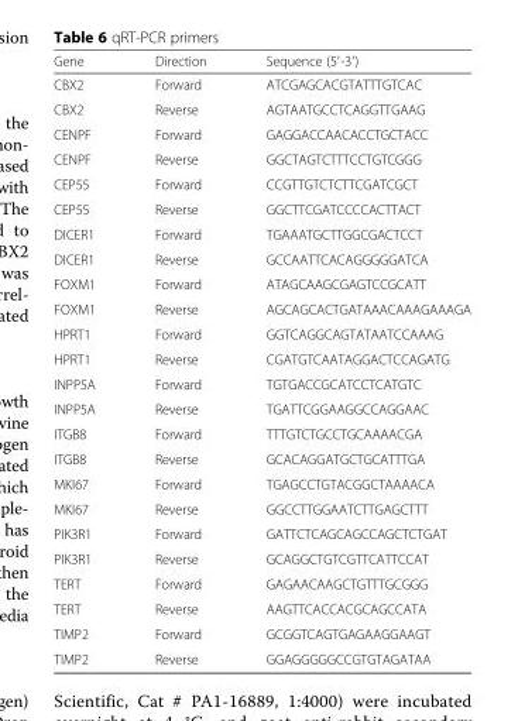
<table><thead><tr><td>Gene</td><td>Direction</td><td>Sequence (5′-3′)</td></tr></thead><tbody><tr><td>CBX2</td><td>Forward</td><td>ATCGAGCACGTATTTGTCAC</td></tr><tr><td>CBX2</td><td>Reverse</td><td>AGTAATGCCTCAGGTTGAAG</td></tr><tr><td>CENPF</td><td>Forward</td><td>GAGGACCAACACCTGCTACC</td></tr><tr><td>CENPF</td><td>Reverse</td><td>GGCTAGTCTTTCCTGTCGGG</td></tr><tr><td>CEP55</td><td>Forward</td><td>CCGTTGTCTCTTCGATCGCT</td></tr><tr><td>CEP55</td><td>Reverse</td><td>GGCTTCGATCCCCACTTACT</td></tr><tr><td>DICER1</td><td>Forward</td><td>TGAAATGCTTGGCGACTCCT</td></tr><tr><td>DICER1</td><td>Reverse</td><td>GCCAATTCACAGGGGGATCA</td></tr><tr><td>FOXM1</td><td>Forward</td><td>ATAGCAAGCGAGTCCGCATT</td></tr><tr><td>FOXM1</td><td>Reverse</td><td>AGCAGCACTGATAAACAAAGAAAGA</td></tr><tr><td>HPRT1</td><td>Forward</td><td>GGTCAGGCAGTATAATCCAAAG</td></tr><tr><td>HPRT1</td><td>Reverse</td><td>CGATGTCAATAGGACTCCAGATG</td></tr><tr><td>INPP5A</td><td>Forward</td><td>TGTGACCGCATCCTCATGTC</td></tr><tr><td>INPP5A</td><td>Reverse</td><td>TGATTCGGAAGGCCAGGAAC</td></tr><tr><td>ITGB8</td><td>Forward</td><td>TTTGTCTGCCTGCAAAACGA</td></tr><tr><td>ITGB8</td><td>Reverse</td><td>GCACAGGATGCTGCATTTGA</td></tr><tr><td>MKI67</td><td>Forward</td><td>TGAGCCTGTACGGCTAAAACA</td></tr><tr><td>MKI67</td><td>Reverse</td><td>GGCCTTGGAATCTTGAGCTTT</td></tr><tr><td>PIK3R1</td><td>Forward</td><td>GATTCTCAGCAGCCAGCTCTGAT</td></tr><tr><td>PIK3R1</td><td>Reverse</td><td>GCAGGCTGTCGTTCATTCCAT</td></tr><tr><td>TERT</td><td>Forward</td><td>GAGAACAAGCTGTTTGCGGG</td></tr><tr><td>TERT</td><td>Reverse</td><td>AAGTTCACCACGCAGCCATA</td></tr><tr><td>TIMP2</td><td>Forward</td><td>GCGGTCAGTGAGAAGGAAGT</td></tr><tr><td>TIMP2</td><td>Reverse</td><td>GGAGGGGGCCGTGTAGATAA</td></tr></tbody></table>